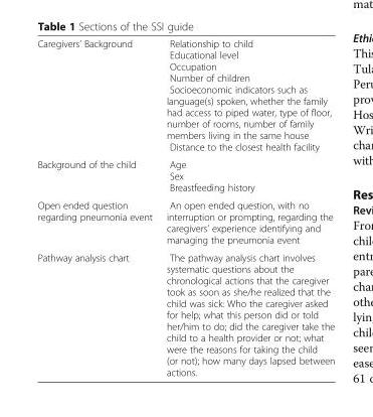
<table><tbody><tr><td>Caregivers’ Background</td><td>Relationship to child Educational level Occupation Number of children Socioeconomic indicators such as language(s) spoken, whether the family had access to piped water, type of floor, number of rooms, number of family members living in the same house Distance to the closest health facility</td></tr><tr><td>Background of the child</td><td>Age Sex Breastfeeding history</td></tr><tr><td>Open ended question regarding pneumonia event</td><td>An open ended question, with no interruption or prompting, regarding the caregivers’ experience identifying and managing the pneumonia event</td></tr><tr><td>Pathway analysis chart</td><td>The pathway analysis chart involves systematic questions about the chronological actions that the caregiver took as soon as she/he realized that the child was sick: Who the caregiver asked for help; what this person did or told her/him to do; did the caregiver take the child to a health provider or not; what were the reasons for taking the child (or not); how many days lapsed between actions.</td></tr></tbody></table>